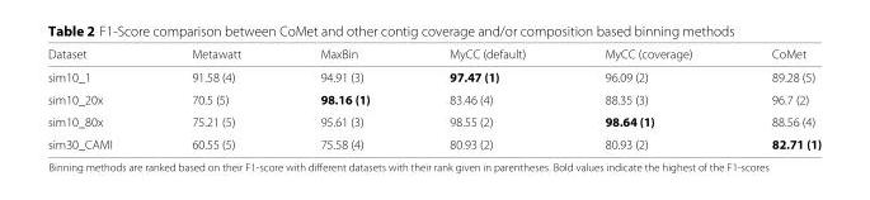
<table><thead><tr><td>Dataset</td><td>Metawatt</td><td>MaxBin</td><td>MyCC (default)</td><td>MyCC (coverage)</td><td>CoMet</td></tr></thead><tbody><tr><td>sim10_1</td><td>91.58 (4)</td><td>94.91 (3)</td><td>97.47 (1)</td><td>96.09 (2)</td><td>89.28 (5)</td></tr><tr><td>sim10_20x</td><td>70.5 (5)</td><td>98.16 (1)</td><td>83.46 (4)</td><td>88.35 (3)</td><td>96.7 (2)</td></tr><tr><td>sim10_80x</td><td>75.21 (5)</td><td>95.61 (3)</td><td>98.55 (2)</td><td>98.64 (1)</td><td>88.56 (4)</td></tr><tr><td>sim30_CAMI</td><td>60.55 (5)</td><td>75.58 (4)</td><td>80.93 (2)</td><td>80.93 (2)</td><td>82.71 (1)</td></tr></tbody></table>